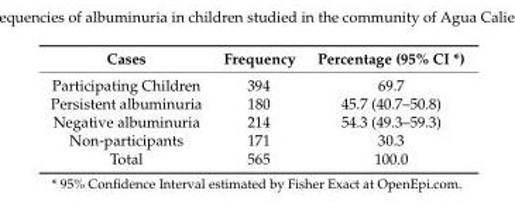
<table><thead><tr><td>Cases</td><td>Frequency</td><td>Percentage (95% CI *)</td></tr></thead><tbody><tr><td>Participating Children</td><td>394</td><td>69.7</td></tr><tr><td>Persistent albuminuria</td><td>180</td><td>45.7 (40.7–50.8)</td></tr><tr><td>Negative albuminuria</td><td>214</td><td>54.3 (49.3–59.3)</td></tr><tr><td>Non-participants</td><td>171</td><td>30.3</td></tr><tr><td>Total</td><td>565</td><td>100.0</td></tr></tbody></table>